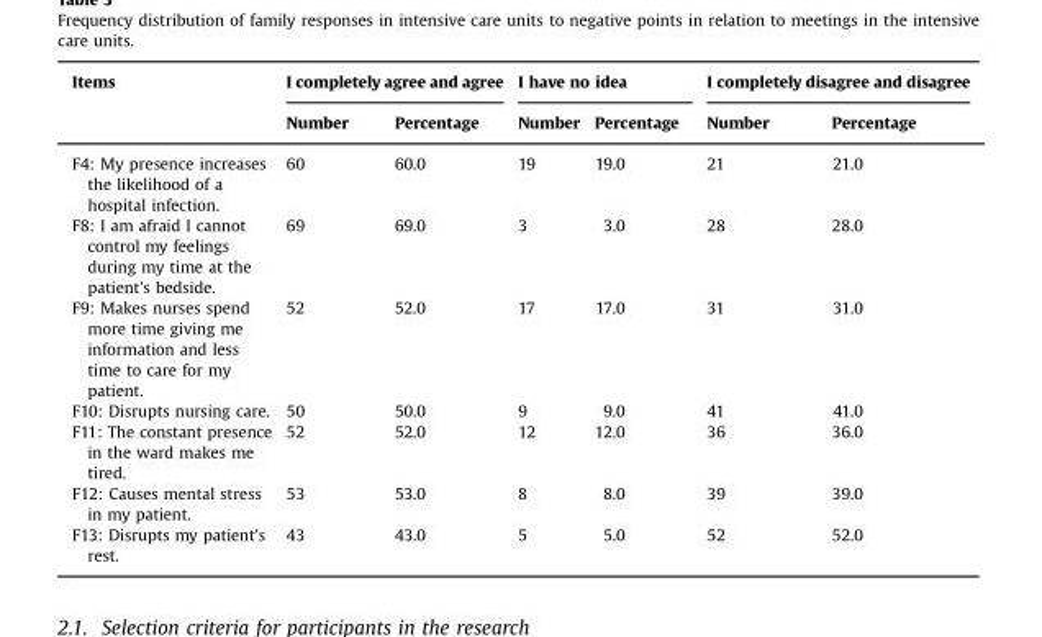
<table><thead><tr><td rowspan="2">Items</td><td colspan="2">I completely agree and agree</td><td colspan="2">I have no idea</td><td colspan="2">I completely disagree and disagree</td></tr><tr><td>Number</td><td>Percentage</td><td>Number</td><td>Percentage</td><td>Number</td><td>Percentage</td></tr></thead><tbody><tr><td>F4: My presence increases the likelihood of a hospital infection.</td><td>60</td><td>60.0</td><td>19</td><td>19.0</td><td>21</td><td>21.0</td></tr><tr><td>F8: I am afraid I cannot control my feelings during my time at the patient&#x27;s bedside.</td><td>69</td><td>69.0</td><td>3</td><td>3.0</td><td>28</td><td>28.0</td></tr><tr><td>F9: Makes nurses spend more time giving me information and less time to care for my patient.</td><td>52</td><td>52.0</td><td>17</td><td>17.0</td><td>31</td><td>31.0</td></tr><tr><td>F10: Disrupts nursing care.</td><td>50</td><td>50.0</td><td>9</td><td>9.0</td><td>41</td><td>41.0</td></tr><tr><td>F11: The constant presence in the ward makes me tired.</td><td>52</td><td>52.0</td><td>12</td><td>12.0</td><td>36</td><td>36.0</td></tr><tr><td>F12: Causes mental stress in my patient.</td><td>53</td><td>53.0</td><td>8</td><td>8.0</td><td>39</td><td>39.0</td></tr><tr><td>F13: Disrupts my patient&#x27;s rest.</td><td>43</td><td>43.0</td><td>5</td><td>5.0</td><td>52</td><td>52.0</td></tr></tbody></table>